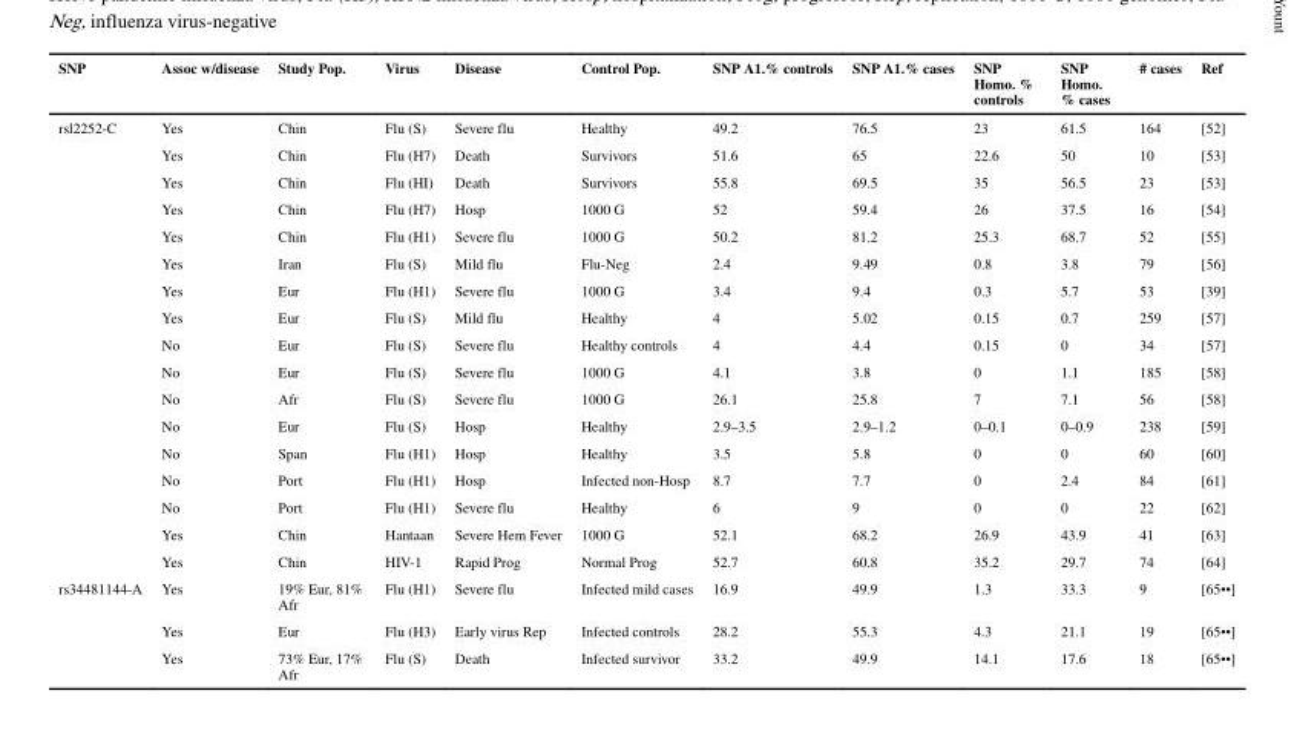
<table><thead><tr><td>SNP</td><td>Assoc w/disease</td><td>Study Pop.</td><td>Virus</td><td>Disease</td><td>Control Pop.</td><td>SNP A1.% controls</td><td>SNP A1.% cases</td><td>SNP Homo. % controls</td><td>SNP Homo. % cases</td><td># cases</td><td>Ref</td></tr></thead><tbody><tr><td rowspan="17">rsl2252-C</td><td>Yes</td><td>Chin</td><td>Flu (S)</td><td>Severe flu</td><td>Healthy</td><td>49.2</td><td>76.5</td><td>23</td><td>61.5</td><td>164</td><td>[52]</td></tr><tr><td>Yes</td><td>Chin</td><td>Flu (H7)</td><td>Death</td><td>Survivors</td><td>51.6</td><td>65</td><td>22.6</td><td>50</td><td>10</td><td>[53]</td></tr><tr><td>Yes</td><td>Chin</td><td>Flu (HI)</td><td>Death</td><td>Survivors</td><td>55.8</td><td>69.5</td><td>35</td><td>56.5</td><td>23</td><td>[53]</td></tr><tr><td>Yes</td><td>Chin</td><td>Flu (H7)</td><td>Hosp</td><td>1000 G</td><td>52</td><td>59.4</td><td>26</td><td>37.5</td><td>16</td><td>[54]</td></tr><tr><td>Yes</td><td>Chin</td><td>Flu (H1)</td><td>Severe flu</td><td>1000 G</td><td>50.2</td><td>81.2</td><td>25.3</td><td>68.7</td><td>52</td><td>[55]</td></tr><tr><td>Yes</td><td>Iran</td><td>Flu (S)</td><td>Mild flu</td><td>Flu-Neg</td><td>2.4</td><td>9.49</td><td>0.8</td><td>3.8</td><td>79</td><td>[56]</td></tr><tr><td>Yes</td><td>Eur</td><td>Flu (H1)</td><td>Severe flu</td><td>1000 G</td><td>3.4</td><td>9.4</td><td>0.3</td><td>5.7</td><td>53</td><td>[39]</td></tr><tr><td>Yes</td><td>Eur</td><td>Flu (S)</td><td>Mild flu</td><td>Healthy</td><td>4</td><td>5.02</td><td>0.15</td><td>0.7</td><td>259</td><td>[57]</td></tr><tr><td>No</td><td>Eur</td><td>Flu (S)</td><td>Severe flu</td><td>Healthy controls</td><td>4</td><td>4.4</td><td>0.15</td><td>0</td><td>34</td><td>[57]</td></tr><tr><td>No</td><td>Eur</td><td>Flu (S)</td><td>Severe flu</td><td>1000 G</td><td>4.1</td><td>3.8</td><td>0</td><td>1.1</td><td>185</td><td>[58]</td></tr><tr><td>No</td><td>Afr</td><td>Flu (S)</td><td>Severe flu</td><td>1000 G</td><td>26.1</td><td>25.8</td><td>7</td><td>7.1</td><td>56</td><td>[58]</td></tr><tr><td>No</td><td>Eur</td><td>Flu (S)</td><td>Hosp</td><td>Healthy</td><td>2.9–3.5</td><td>2.9–1.2</td><td>0–0.1</td><td>0–0.9</td><td>238</td><td>[59]</td></tr><tr><td>No</td><td>Span</td><td>Flu (H1)</td><td>Hosp</td><td>Healthy</td><td>3.5</td><td>5.8</td><td>0</td><td>0</td><td>60</td><td>[60]</td></tr><tr><td>No</td><td>Port</td><td>Flu (H1)</td><td>Hosp</td><td>Infected non-Hosp</td><td>8.7</td><td>7.7</td><td>0</td><td>2.4</td><td>84</td><td>[61]</td></tr><tr><td>No</td><td>Port</td><td>Flu (H1)</td><td>Severe flu</td><td>Healthy</td><td>6</td><td>9</td><td>0</td><td>0</td><td>22</td><td>[62]</td></tr><tr><td>Yes</td><td>Chin</td><td>Hantaan</td><td>Severe Hem Fever</td><td>1000 G</td><td>52.1</td><td>68.2</td><td>26.9</td><td>43.9</td><td>41</td><td>[63]</td></tr><tr><td>Yes</td><td>Chin</td><td>HIV-1</td><td>Rapid Prog</td><td>Normal Prog</td><td>52.7</td><td>60.8</td><td>35.2</td><td>29.7</td><td>74</td><td>[64]</td></tr><tr><td rowspan="3">rs34481144-A</td><td>Yes</td><td>19% Eur, 81% Afr</td><td>Flu (H1)</td><td>Severe flu</td><td>Infected mild cases</td><td>16.9</td><td>49.9</td><td>1.3</td><td>33.3</td><td>9</td><td>[65••]</td></tr><tr><td>Yes</td><td>Eur</td><td>Flu (H3)</td><td>Early virus Rep</td><td>Infected controls</td><td>28.2</td><td>55.3</td><td>4.3</td><td>21.1</td><td>19</td><td>[65••]</td></tr><tr><td>Yes</td><td>73% Eur, 17% Afr</td><td>Flu (S)</td><td>Death</td><td>Infected survivor</td><td>33.2</td><td>49.9</td><td>14.1</td><td>17.6</td><td>18</td><td>[65••]</td></tr></tbody></table>